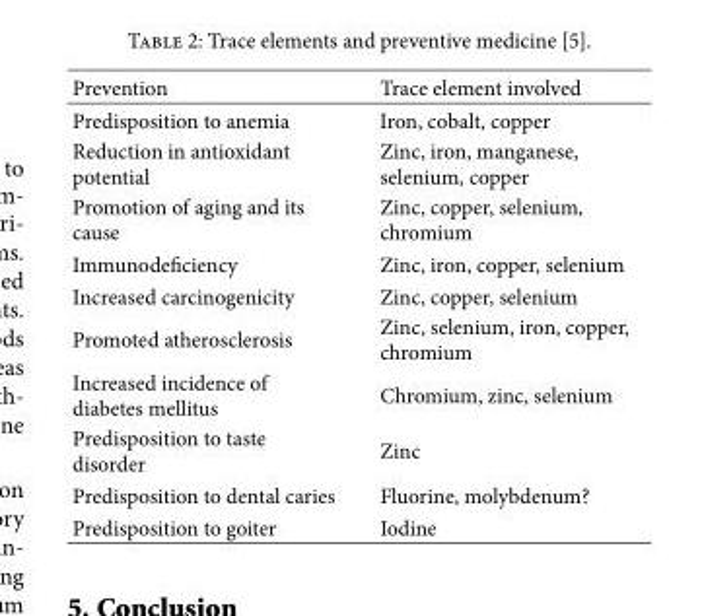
<table><thead><tr><td>Prevention</td><td>Trace element involved</td></tr></thead><tbody><tr><td>Predisposition to anemia</td><td>Iron, cobalt, copper</td></tr><tr><td>Reduction in antioxidant potential</td><td>Zinc, iron, manganese, selenium, copper</td></tr><tr><td>Promotion of aging and its cause</td><td>Zinc, copper, selenium, chromium</td></tr><tr><td>Immunodeficiency</td><td>Zinc, iron, copper, selenium</td></tr><tr><td>Increased carcinogenicity</td><td>Zinc, copper, selenium</td></tr><tr><td>Promoted atherosclerosis</td><td>Zinc, selenium, iron, copper, chromium</td></tr><tr><td>Increased incidence of diabetes mellitus</td><td>Chromium, zinc, selenium</td></tr><tr><td>Predisposition to taste disorder</td><td>Zinc</td></tr><tr><td>Predisposition to dental caries</td><td>Fluorine, molybdenum?</td></tr><tr><td>Predisposition to goiter</td><td>Iodine</td></tr></tbody></table>